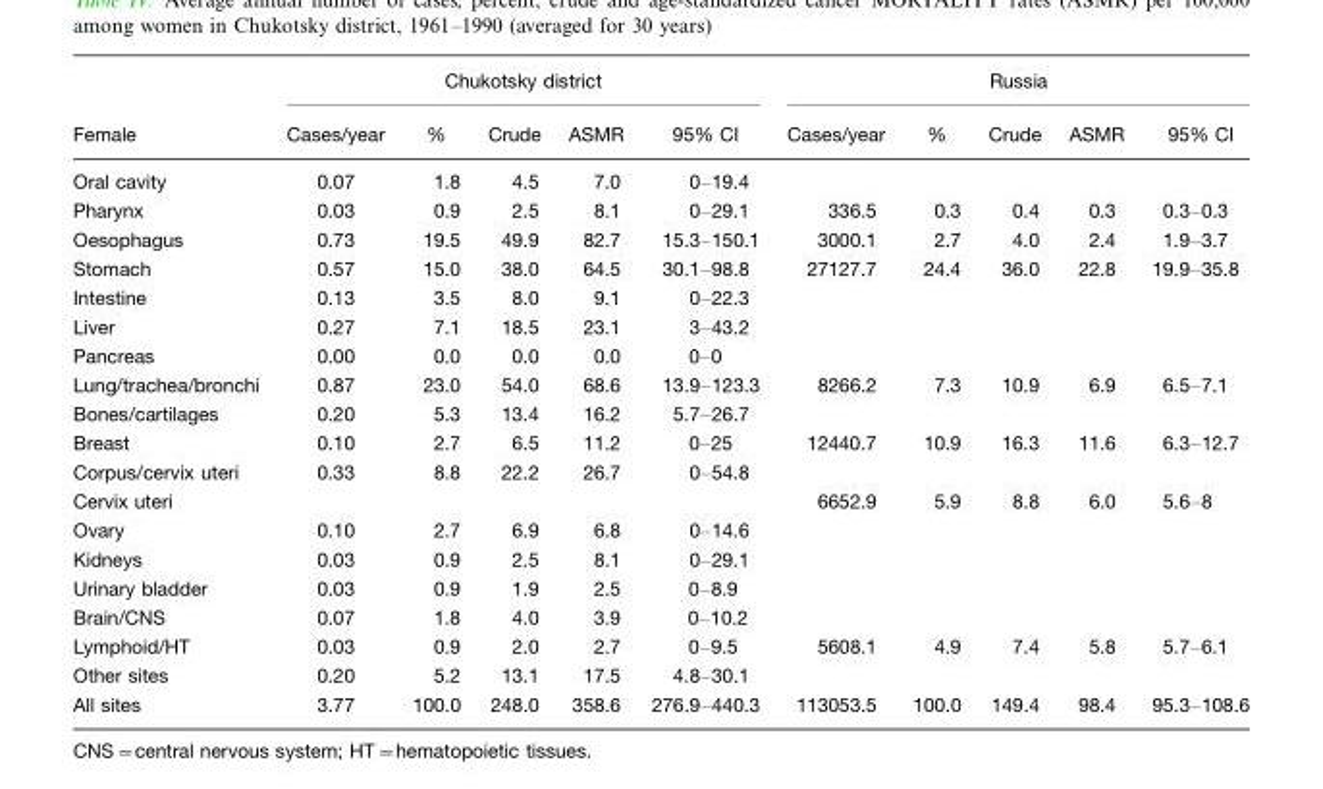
<table><thead><tr><td rowspan="2">Female</td><td colspan="5">Chukotsky district</td><td colspan="5">Russia</td></tr><tr><td>Cases/year</td><td>%</td><td>Crude</td><td>ASMR</td><td>95% CI</td><td>Cases/year</td><td>%</td><td>Crude</td><td>ASMR</td><td>95% CI</td></tr></thead><tbody><tr><td>Oral cavity</td><td>0.07</td><td>1.8</td><td>4.5</td><td>7.0</td><td>0–19.4</td><td></td><td></td><td></td><td></td><td></td></tr><tr><td>Pharynx</td><td>0.03</td><td>0.9</td><td>2.5</td><td>8.1</td><td>0–29.1</td><td>336.5</td><td>0.3</td><td>0.4</td><td>0.3</td><td>0.3–0.3</td></tr><tr><td>Oesophagus</td><td>0.73</td><td>19.5</td><td>49.9</td><td>82.7</td><td>15.3–150.1</td><td>3000.1</td><td>2.7</td><td>4.0</td><td>2.4</td><td>1.9–3.7</td></tr><tr><td>Stomach</td><td>0.57</td><td>15.0</td><td>38.0</td><td>64.5</td><td>30.1–98.8</td><td>27127.7</td><td>24.4</td><td>36.0</td><td>22.8</td><td>19.9–35.8</td></tr><tr><td>Intestine</td><td>0.13</td><td>3.5</td><td>8.0</td><td>9.1</td><td>0–22.3</td><td></td><td></td><td></td><td></td><td></td></tr><tr><td>Liver</td><td>0.27</td><td>7.1</td><td>18.5</td><td>23.1</td><td>3–43.2</td><td></td><td></td><td></td><td></td><td></td></tr><tr><td>Pancreas</td><td>0.00</td><td>0.0</td><td>0.0</td><td>0.0</td><td>0–0</td><td></td><td></td><td></td><td></td><td></td></tr><tr><td>Lung/trachea/bronchi</td><td>0.87</td><td>23.0</td><td>54.0</td><td>68.6</td><td>13.9–123.3</td><td>8266.2</td><td>7.3</td><td>10.9</td><td>6.9</td><td>6.5–7.1</td></tr><tr><td>Bones/cartilages</td><td>0.20</td><td>5.3</td><td>13.4</td><td>16.2</td><td>5.7–26.7</td><td></td><td></td><td></td><td></td><td></td></tr><tr><td>Breast</td><td>0.10</td><td>2.7</td><td>6.5</td><td>11.2</td><td>0–25</td><td>12440.7</td><td>10.9</td><td>16.3</td><td>11.6</td><td>6.3–12.7</td></tr><tr><td>Corpus/cervix uteri</td><td>0.33</td><td>8.8</td><td>22.2</td><td>26.7</td><td>0–54.8</td><td></td><td></td><td></td><td></td><td></td></tr><tr><td>Cervix uteri</td><td></td><td></td><td></td><td></td><td></td><td>6652.9</td><td>5.9</td><td>8.8</td><td>6.0</td><td>5.6–8</td></tr><tr><td>Ovary</td><td>0.10</td><td>2.7</td><td>6.9</td><td>6.8</td><td>0–14.6</td><td></td><td></td><td></td><td></td><td></td></tr><tr><td>Kidneys</td><td>0.03</td><td>0.9</td><td>2.5</td><td>8.1</td><td>0–29.1</td><td></td><td></td><td></td><td></td><td></td></tr><tr><td>Urinary bladder</td><td>0.03</td><td>0.9</td><td>1.9</td><td>2.5</td><td>0–8.9</td><td></td><td></td><td></td><td></td><td></td></tr><tr><td>Brain/CNS</td><td>0.07</td><td>1.8</td><td>4.0</td><td>3.9</td><td>0–10.2</td><td></td><td></td><td></td><td></td><td></td></tr><tr><td>Lymphoid/HT</td><td>0.03</td><td>0.9</td><td>2.0</td><td>2.7</td><td>0–9.5</td><td>5608.1</td><td>4.9</td><td>7.4</td><td>5.8</td><td>5.7–6.1</td></tr><tr><td>Other sites</td><td>0.20</td><td>5.2</td><td>13.1</td><td>17.5</td><td>4.8–30.1</td><td></td><td></td><td></td><td></td><td></td></tr><tr><td>All sites</td><td>3.77</td><td>100.0</td><td>248.0</td><td>358.6</td><td>276.9–440.3</td><td>113053.5</td><td>100.0</td><td>149.4</td><td>98.4</td><td>95.3–108.6</td></tr></tbody></table>